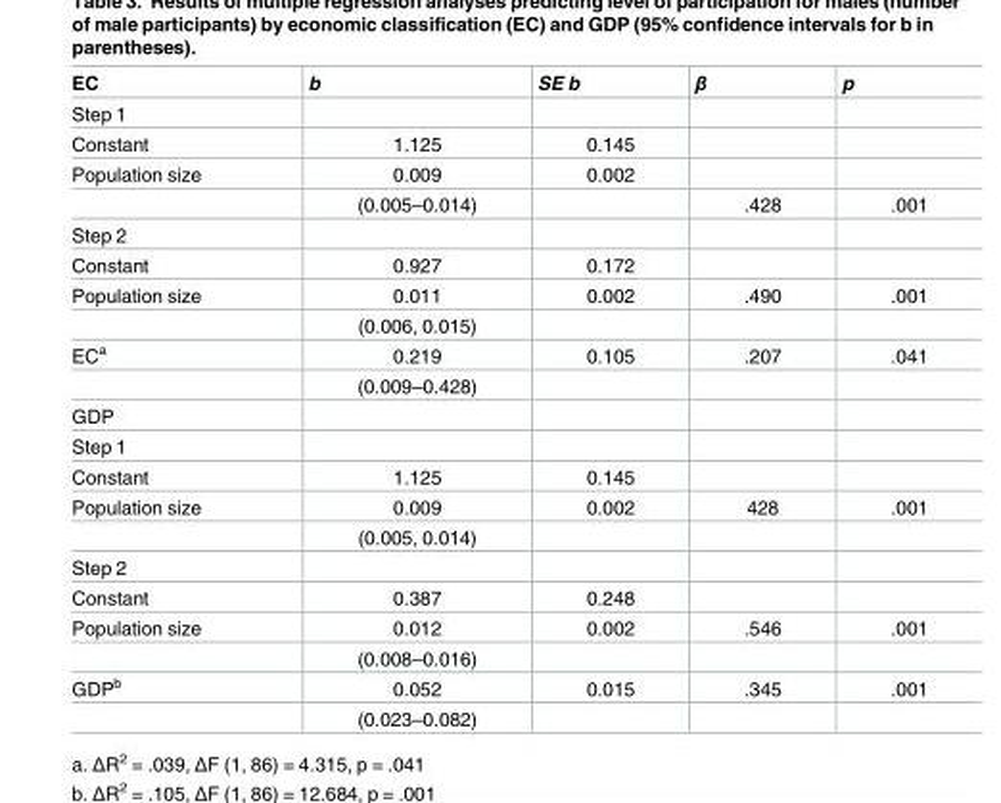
<table><thead><tr><td>EC</td><td>b</td><td>SE b</td><td>β</td><td>p</td></tr></thead><tbody><tr><td colspan="5">Step 1</td></tr><tr><td>Constant</td><td>1.125</td><td>0.145</td><td></td><td></td></tr><tr><td rowspan="2">Population size</td><td>0.009</td><td>0.002</td><td></td><td></td></tr><tr><td>(0.005–0.014)</td><td></td><td>.428</td><td>.001</td></tr><tr><td colspan="5">Step 2</td></tr><tr><td>Constant</td><td>0.927</td><td>0.172</td><td></td><td></td></tr><tr><td rowspan="2">Population size</td><td>0.011</td><td>0.002</td><td>.490</td><td>.001</td></tr><tr><td>(0.006, 0.015)</td><td></td><td></td><td></td></tr><tr><td rowspan="2">EC<sup>a</sup></td><td>0.219</td><td>0.105</td><td>.207</td><td>.041</td></tr><tr><td>(0.009–0.428)</td><td></td><td></td><td></td></tr><tr><td colspan="5">GDP</td></tr><tr><td colspan="5">Step 1</td></tr><tr><td>Constant</td><td>1.125</td><td>0.145</td><td></td><td></td></tr><tr><td rowspan="2">Population size</td><td>0.009</td><td>0.002</td><td>428</td><td>.001</td></tr><tr><td>(0.005, 0.014)</td><td></td><td></td><td></td></tr><tr><td colspan="5">Step 2</td></tr><tr><td>Constant</td><td>0.387</td><td>0.248</td><td></td><td></td></tr><tr><td rowspan="2">Population size</td><td>0.012</td><td>0.002</td><td>.546</td><td>.001</td></tr><tr><td>(0.008–0.016)</td><td></td><td></td><td></td></tr><tr><td rowspan="2">GDP<sup>b</sup></td><td>0.052</td><td>0.015</td><td>.345</td><td>.001</td></tr><tr><td>(0.023–0.082)</td><td></td><td></td><td></td></tr></tbody></table>